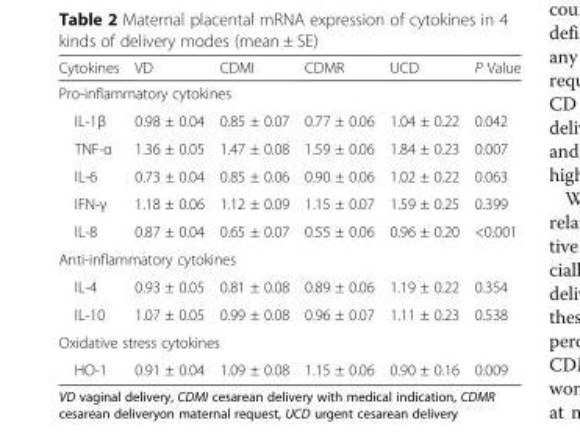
<table><thead><tr><td>Cytokines</td><td>VD</td><td>CDMI</td><td>CDMR</td><td>UCD</td><td>P Value</td></tr></thead><tbody><tr><td colspan="6">Pro-inflammatory cytokines</td></tr><tr><td>IL-1β</td><td>0.98 ± 0.04</td><td>0.85 ± 0.07</td><td>0.77 ± 0.06</td><td>1.04 ± 0.22</td><td>0.042</td></tr><tr><td>TNF-α</td><td>1.36 ± 0.05</td><td>1.47 ± 0.08</td><td>1.59 ± 0.06</td><td>1.84 ± 0.23</td><td>0.007</td></tr><tr><td>IL-6</td><td>0.73 ± 0.04</td><td>0.85 ± 0.06</td><td>0.90 ± 0.06</td><td>1.02 ± 0.22</td><td>0.063</td></tr><tr><td>IFN-γ</td><td>1.18 ± 0.06</td><td>1.12 ± 0.09</td><td>1.15 ± 0.07</td><td>1.59 ± 0.25</td><td>0.399</td></tr><tr><td>IL-8</td><td>0.87 ± 0.04</td><td>0.65 ± 0.07</td><td>0.55 ± 0.06</td><td>0.96 ± 0.20</td><td>&lt;0.001</td></tr><tr><td colspan="6">Anti-inflammatory cytokines</td></tr><tr><td>IL-4</td><td>0.93 ± 0.05</td><td>0.81 ± 0.08</td><td>0.89 ± 0.06</td><td>1.19 ± 0.22</td><td>0.354</td></tr><tr><td>IL-10</td><td>1.07 ± 0.05</td><td>0.99 ± 0.08</td><td>0.96 ± 0.07</td><td>1.11 ± 0.23</td><td>0.538</td></tr><tr><td colspan="6">Oxidative stress cytokines</td></tr><tr><td>HO-1</td><td>0.91 ± 0.04</td><td>1.09 ± 0.08</td><td>1.15 ± 0.06</td><td>0.90 ± 0.16</td><td>0.009</td></tr></tbody></table>